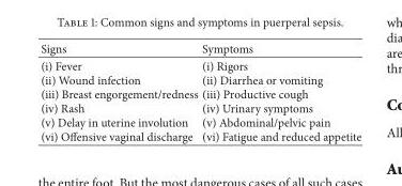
<table><thead><tr><td>Signs</td><td>Symptoms</td></tr></thead><tbody><tr><td>(i) Fever (ii) Wound infection (iii) Breast engorgement/redness (iv) Rash (v) Delay in uterine involution (vi) Offensive vaginal discharge</td><td>(i) Rigors (ii) Diarrhea or vomiting (iii) Productive cough (iv) Urinary symptoms (v) Abdominal/pelvic pain (vi) Fatigue and reduced appetite</td></tr></tbody></table>